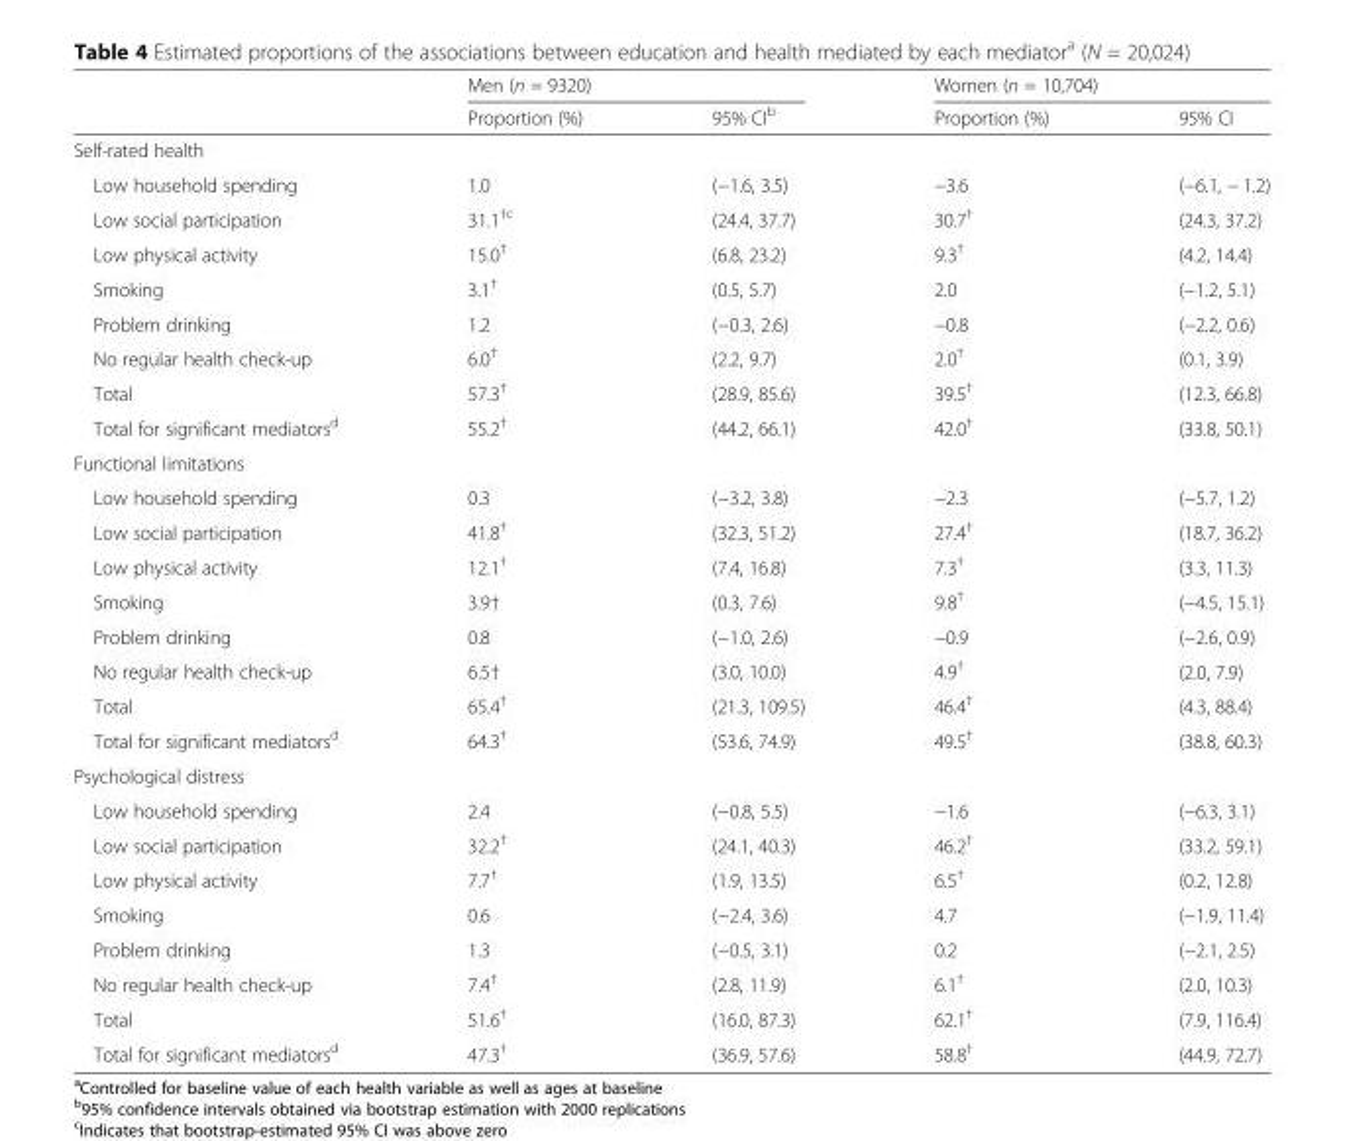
<table><thead><tr><td rowspan="2"></td><td colspan="2">Men (n = 9320)</td><td colspan="2">Women (n = 10,704)</td></tr><tr><td>Proportion (%)</td><td>95% CI<sup>b</sup></td><td>Proportion (%)</td><td>95% CI</td></tr></thead><tbody><tr><td colspan="5">Self-rated health</td></tr><tr><td>Low household spending</td><td>1.0</td><td>(−1.6, 3.5)</td><td>−3.6</td><td>(−6.1, − 1.2)</td></tr><tr><td>Low social participation</td><td>31.1<sup>†c</sup></td><td>(24.4, 37.7)</td><td>30.7<sup>†</sup></td><td>(24.3, 37.2)</td></tr><tr><td>Low physical activity</td><td>15.0<sup>†</sup></td><td>(6.8, 23.2)</td><td>9.3<sup>†</sup></td><td>(4.2, 14.4)</td></tr><tr><td>Smoking</td><td>3.1<sup>†</sup></td><td>(0.5, 5.7)</td><td>2.0</td><td>(−1.2, 5.1)</td></tr><tr><td>Problem drinking</td><td>1.2</td><td>(−0.3, 2.6)</td><td>−0.8</td><td>(−2.2, 0.6)</td></tr><tr><td>No regular health check-up</td><td>6.0<sup>†</sup></td><td>(2.2, 9.7)</td><td>2.0<sup>†</sup></td><td>(0.1, 3.9)</td></tr><tr><td>Total</td><td>57.3<sup>†</sup></td><td>(28.9, 85.6)</td><td>39.5<sup>†</sup></td><td>(12.3, 66.8)</td></tr><tr><td>Total for significant mediators<sup>d</sup></td><td>55.2<sup>†</sup></td><td>(44.2, 66.1)</td><td>42.0<sup>†</sup></td><td>(33.8, 50.1)</td></tr><tr><td colspan="5">Functional limitations</td></tr><tr><td>Low household spending</td><td>0.3</td><td>(−3.2, 3.8)</td><td>−2.3</td><td>(−5.7, 1.2)</td></tr><tr><td>Low social participation</td><td>41.8<sup>†</sup></td><td>(32.3, 51.2)</td><td>27.4<sup>†</sup></td><td>(18.7, 36.2)</td></tr><tr><td>Low physical activity</td><td>12.1<sup>†</sup></td><td>(7.4, 16.8)</td><td>7.3<sup>†</sup></td><td>(3.3, 11.3)</td></tr><tr><td>Smoking</td><td>3.9†</td><td>(0.3, 7.6)</td><td>9.8<sup>†</sup></td><td>(−4.5, 15.1)</td></tr><tr><td>Problem drinking</td><td>0.8</td><td>(−1.0, 2.6)</td><td>−0.9</td><td>(−2.6, 0.9)</td></tr><tr><td>No regular health check-up</td><td>6.5†</td><td>(3.0, 10.0)</td><td>4.9<sup>†</sup></td><td>(2.0, 7.9)</td></tr><tr><td>Total</td><td>65.4<sup>†</sup></td><td>(21.3, 109.5)</td><td>46.4<sup>†</sup></td><td>(4.3, 88.4)</td></tr><tr><td>Total for significant mediators<sup>d</sup></td><td>64.3<sup>†</sup></td><td>(53.6, 74.9)</td><td>49.5<sup>†</sup></td><td>(38.8, 60.3)</td></tr><tr><td colspan="5">Psychological distress</td></tr><tr><td>Low household spending</td><td>2.4</td><td>(−0.8, 5.5)</td><td>−1.6</td><td>(−6.3, 3.1)</td></tr><tr><td>Low social participation</td><td>32.2<sup>†</sup></td><td>(24.1, 40.3)</td><td>46.2<sup>†</sup></td><td>(33.2, 59.1)</td></tr><tr><td>Low physical activity</td><td>7.7<sup>†</sup></td><td>(1.9, 13.5)</td><td>6.5<sup>†</sup></td><td>(0.2, 12.8)</td></tr><tr><td>Smoking</td><td>0.6</td><td>(−2.4, 3.6)</td><td>4.7</td><td>(−1.9, 11.4)</td></tr><tr><td>Problem drinking</td><td>1.3</td><td>(−0.5, 3.1)</td><td>0.2</td><td>(−2.1, 2.5)</td></tr><tr><td>No regular health check-up</td><td>7.4<sup>†</sup></td><td>(2.8, 11.9)</td><td>6.1<sup>†</sup></td><td>(2.0, 10.3)</td></tr><tr><td>Total</td><td>51.6<sup>†</sup></td><td>(16.0, 87.3)</td><td>62.1<sup>†</sup></td><td>(7.9, 116.4)</td></tr><tr><td>Total for significant mediators<sup>d</sup></td><td>47.3<sup>†</sup></td><td>(36.9, 57.6)</td><td>58.8<sup>†</sup></td><td>(44.9, 72.7)</td></tr></tbody></table>